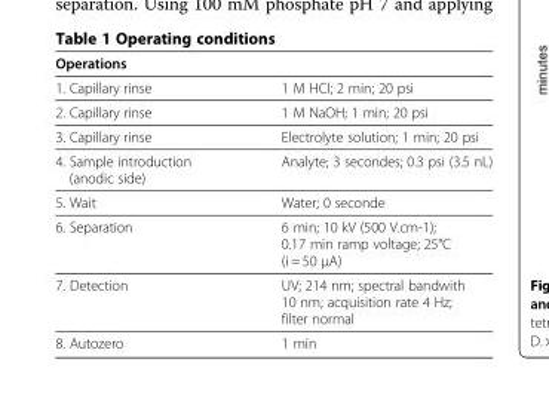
<table><thead><tr><td>Operations</td><td></td></tr></thead><tbody><tr><td>1. Capillary rinse</td><td>1 M HCl; 2 min; 20 psi</td></tr><tr><td>2. Capillary rinse</td><td>1 M NaOH; 1 min; 20 psi</td></tr><tr><td>3. Capillary rinse</td><td>Electrolyte solution; 1 min; 20 psi</td></tr><tr><td>4. Sample introduction (anodic side)</td><td>Analyte; 3 secondes; 0.3 psi (3.5 nL)</td></tr><tr><td>5. Wait</td><td>Water; 0 seconde</td></tr><tr><td>6. Separation</td><td>6 min; 10 kV (500 V.cm-1); 0.17 min ramp voltage; 25°C (i = 50 μA)</td></tr><tr><td>7. Detection</td><td>UV; 214 nm; spectral bandwith 10 nm; acquisition rate 4 Hz; filter normal</td></tr><tr><td>8. Autozero</td><td>1 min</td></tr></tbody></table>